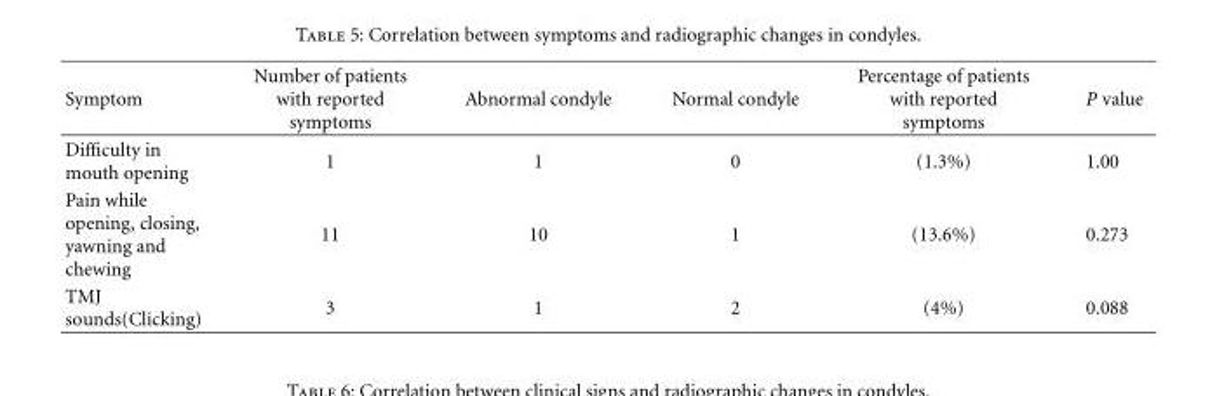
<table><thead><tr><td>Symptom</td><td>Number of patients with reported symptoms</td><td>Abnormal condyle</td><td>Normal condyle</td><td>Percentage of patients with reported symptoms</td><td>P value</td></tr></thead><tbody><tr><td>Difficulty in mouth opening</td><td>1</td><td>1</td><td>0</td><td>(1.3%)</td><td>1.00</td></tr><tr><td>Pain while opening, closing, yawning and chewing</td><td>11</td><td>10</td><td>1</td><td>(13.6%)</td><td>0.273</td></tr><tr><td>TMJ sounds(Clicking)</td><td>3</td><td>1</td><td>2</td><td>(4%)</td><td>0.088</td></tr></tbody></table>